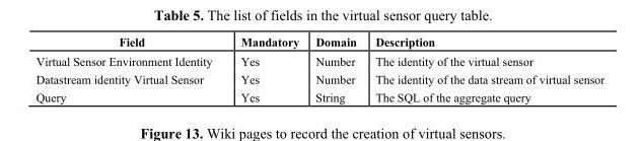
<table><thead><tr><td>Field</td><td>Mandatory</td><td>Domain</td><td>Description</td></tr></thead><tbody><tr><td>Virtual Sensor Environment Identity</td><td>Yes</td><td>Number</td><td>The identity of the virtual sensor</td></tr><tr><td>Datastream identity Virtual Sensor</td><td>Yes</td><td>Number</td><td>The identity of the data stream of virtual sensor</td></tr><tr><td>Query</td><td>Yes</td><td>String</td><td>The SQL of the aggregate query</td></tr></tbody></table>